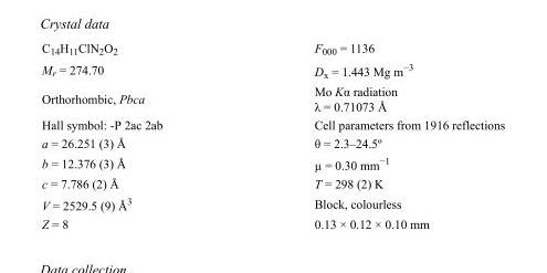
<table><tbody><tr><td>C<sub>14</sub>H<sub>11</sub>ClN<sub>2</sub>O<sub>2</sub></td><td>F<sub>000</sub> = 1136</td></tr><tr><td>M<sub>r</sub> = 274.70</td><td>D<sub>x</sub> = 1.443 Mg m<sup>−3</sup></td></tr><tr><td>Orthorhombic, Pbca</td><td>Mo Kα radiation λ = 0.71073 Å</td></tr><tr><td>Hall symbol: -P 2ac 2ab</td><td>Cell parameters from 1916 reflections</td></tr><tr><td>a = 26.251 (3) Å</td><td>θ = 2.3–24.5º</td></tr><tr><td>b = 12.376 (3) Å</td><td>µ = 0.30 mm<sup>−1</sup></td></tr><tr><td>c = 7.786 (2) Å</td><td>T = 298 (2) K</td></tr><tr><td>V = 2529.5 (9) Å<sup>3</sup></td><td>Block, colourless</td></tr><tr><td>Z = 8</td><td>0.13 × 0.12 × 0.10 mm</td></tr></tbody></table>